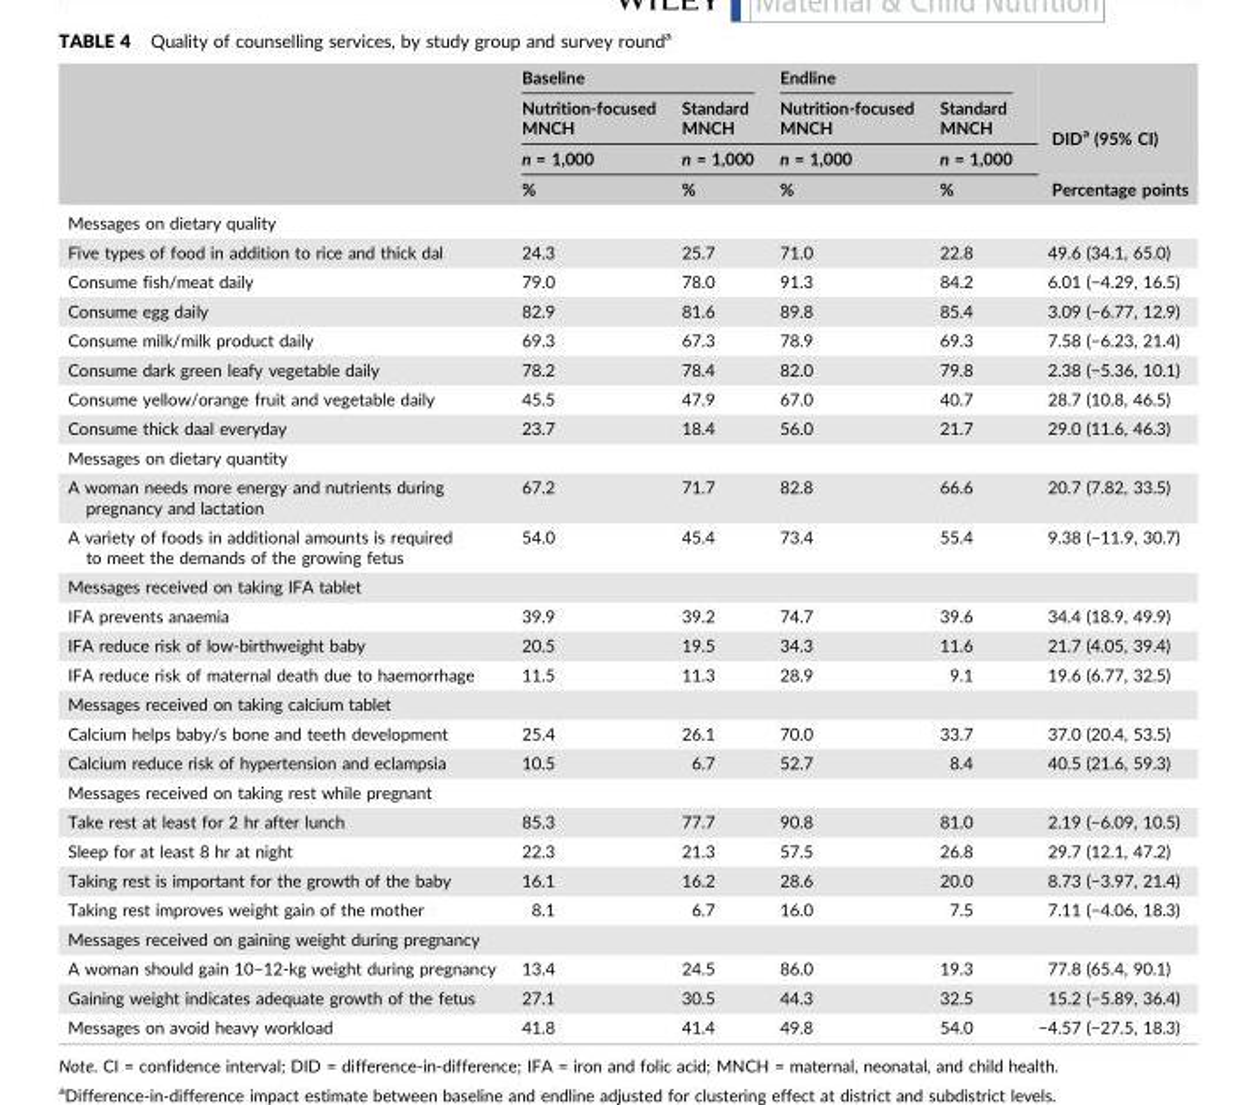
<table><thead><tr><td rowspan="4"></td><td colspan="2">Baseline</td><td colspan="2">Endline</td><td rowspan="4">DID<sup>a</sup> (95% CI) Percentage points</td></tr><tr><td rowspan="3">Nutrition‐focused MNCH n = 1,000 %</td><td rowspan="3">Standard MNCH n = 1,000 %</td><td rowspan="3">Nutrition‐focused MNCH n = 1,000 %</td><td rowspan="3">Standard MNCH n = 1,000 %</td></tr><tr></tr><tr></tr></thead><tbody><tr><td colspan="6">Messages on dietary quality</td></tr><tr><td>Five types of food in addition to rice and thick dal</td><td>24.3</td><td>25.7</td><td>71.0</td><td>22.8</td><td>49.6 (34.1, 65.0)</td></tr><tr><td>Consume fish/meat daily</td><td>79.0</td><td>78.0</td><td>91.3</td><td>84.2</td><td>6.01 (−4.29, 16.5)</td></tr><tr><td>Consume egg daily</td><td>82.9</td><td>81.6</td><td>89.8</td><td>85.4</td><td>3.09 (−6.77, 12.9)</td></tr><tr><td>Consume milk/milk product daily</td><td>69.3</td><td>67.3</td><td>78.9</td><td>69.3</td><td>7.58 (−6.23, 21.4)</td></tr><tr><td>Consume dark green leafy vegetable daily</td><td>78.2</td><td>78.4</td><td>82.0</td><td>79.8</td><td>2.38 (−5.36, 10.1)</td></tr><tr><td>Consume yellow/orange fruit and vegetable daily</td><td>45.5</td><td>47.9</td><td>67.0</td><td>40.7</td><td>28.7 (10.8, 46.5)</td></tr><tr><td>Consume thick daal everyday</td><td>23.7</td><td>18.4</td><td>56.0</td><td>21.7</td><td>29.0 (11.6, 46.3)</td></tr><tr><td colspan="6">Messages on dietary quantity</td></tr><tr><td>A woman needs more energy and nutrients during pregnancy and lactation</td><td>67.2</td><td>71.7</td><td>82.8</td><td>66.6</td><td>20.7 (7.82, 33.5)</td></tr><tr><td>A variety of foods in additional amounts is required to meet the demands of the growing fetus</td><td>54.0</td><td>45.4</td><td>73.4</td><td>55.4</td><td>9.38 (−11.9, 30.7)</td></tr><tr><td colspan="6">Messages received on taking IFA tablet</td></tr><tr><td>IFA prevents anaemia</td><td>39.9</td><td>39.2</td><td>74.7</td><td>39.6</td><td>34.4 (18.9, 49.9)</td></tr><tr><td>IFA reduce risk of low‐birthweight baby</td><td>20.5</td><td>19.5</td><td>34.3</td><td>11.6</td><td>21.7 (4.05, 39.4)</td></tr><tr><td>IFA reduce risk of maternal death due to haemorrhage</td><td>11.5</td><td>11.3</td><td>28.9</td><td>9.1</td><td>19.6 (6.77, 32.5)</td></tr><tr><td colspan="6">Messages received on taking calcium tablet</td></tr><tr><td>Calcium helps baby/s bone and teeth development</td><td>25.4</td><td>26.1</td><td>70.0</td><td>33.7</td><td>37.0 (20.4, 53.5)</td></tr><tr><td>Calcium reduce risk of hypertension and eclampsia</td><td>10.5</td><td>6.7</td><td>52.7</td><td>8.4</td><td>40.5 (21.6, 59.3)</td></tr><tr><td colspan="6">Messages received on taking rest while pregnant</td></tr><tr><td>Take rest at least for 2 hr after lunch</td><td>85.3</td><td>77.7</td><td>90.8</td><td>81.0</td><td>2.19 (−6.09, 10.5)</td></tr><tr><td>Sleep for at least 8 hr at night</td><td>22.3</td><td>21.3</td><td>57.5</td><td>26.8</td><td>29.7 (12.1, 47.2)</td></tr><tr><td>Taking rest is important for the growth of the baby</td><td>16.1</td><td>16.2</td><td>28.6</td><td>20.0</td><td>8.73 (−3.97, 21.4)</td></tr><tr><td>Taking rest improves weight gain of the mother</td><td>8.1</td><td>6.7</td><td>16.0</td><td>7.5</td><td>7.11 (−4.06, 18.3)</td></tr><tr><td colspan="6">Messages received on gaining weight during pregnancy</td></tr><tr><td>A woman should gain 10–12‐kg weight during pregnancy</td><td>13.4</td><td>24.5</td><td>86.0</td><td>19.3</td><td>77.8 (65.4, 90.1)</td></tr><tr><td>Gaining weight indicates adequate growth of the fetus</td><td>27.1</td><td>30.5</td><td>44.3</td><td>32.5</td><td>15.2 (−5.89, 36.4)</td></tr><tr><td>Messages on avoid heavy workload</td><td>41.8</td><td>41.4</td><td>49.8</td><td>54.0</td><td>−4.57 (−27.5, 18.3)</td></tr></tbody></table>